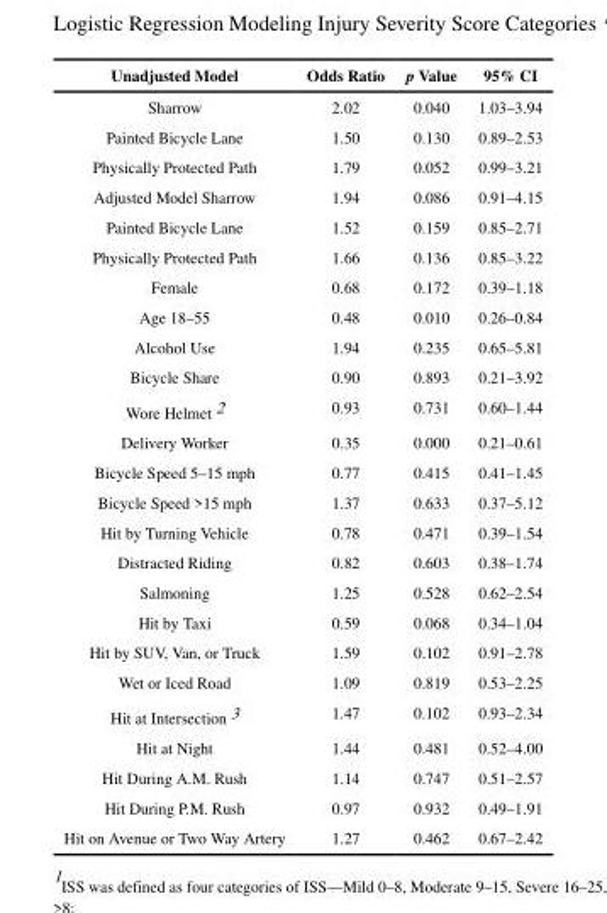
<table><thead><tr><td>Unadjusted Model</td><td>Odds Ratio</td><td>p Value</td><td>95% CI</td></tr></thead><tbody><tr><td>Sharrow</td><td>2.02</td><td>0.040</td><td>1.03–3.94</td></tr><tr><td>Painted Bicycle Lane</td><td>1.50</td><td>0.130</td><td>0.89–2.53</td></tr><tr><td>Physically Protected Path</td><td>1.79</td><td>0.052</td><td>0.99–3.21</td></tr><tr><td>Adjusted Model Sharrow</td><td>1.94</td><td>0.086</td><td>0.91–4.15</td></tr><tr><td>Painted Bicycle Lane</td><td>1.52</td><td>0.159</td><td>0.85–2.71</td></tr><tr><td>Physically Protected Path</td><td>1.66</td><td>0.136</td><td>0.85–3.22</td></tr><tr><td>Female</td><td>0.68</td><td>0.172</td><td>0.39–1.18</td></tr><tr><td>Age 18–55</td><td>0.48</td><td>0.010</td><td>0.26–0.84</td></tr><tr><td>Alcohol Use</td><td>1.94</td><td>0.235</td><td>0.65–5.81</td></tr><tr><td>Bicycle Share</td><td>0.90</td><td>0.893</td><td>0.21–3.92</td></tr><tr><td>Wore Helmet 2</td><td>0.93</td><td>0.731</td><td>0.60–1.44</td></tr><tr><td>Delivery Worker</td><td>0.35</td><td>0.000</td><td>0.21–0.61</td></tr><tr><td>Bicycle Speed 5–15 mph</td><td>0.77</td><td>0.415</td><td>0.41–1.45</td></tr><tr><td>Bicycle Speed &gt;15 mph</td><td>1.37</td><td>0.633</td><td>0.37–5.12</td></tr><tr><td>Hit by Turning Vehicle</td><td>0.78</td><td>0.471</td><td>0.39–1.54</td></tr><tr><td>Distracted Riding</td><td>0.82</td><td>0.603</td><td>0.38–1.74</td></tr><tr><td>Salmoning</td><td>1.25</td><td>0.528</td><td>0.62–2.54</td></tr><tr><td>Hit by Taxi</td><td>0.59</td><td>0.068</td><td>0.34–1.04</td></tr><tr><td>Hit by SUV, Van, or Truck</td><td>1.59</td><td>0.102</td><td>0.91–2.78</td></tr><tr><td>Wet or Iced Road</td><td>1.09</td><td>0.819</td><td>0.53–2.25</td></tr><tr><td>Hit at Intersection 3</td><td>1.47</td><td>0.102</td><td>0.93–2.34</td></tr><tr><td>Hit at Night</td><td>1.44</td><td>0.481</td><td>0.52–4.00</td></tr><tr><td>Hit During A.M. Rush</td><td>1.14</td><td>0.747</td><td>0.51–2.57</td></tr><tr><td>Hit During P.M. Rush</td><td>0.97</td><td>0.932</td><td>0.49–1.91</td></tr><tr><td>Hit on Avenue or Two Way Artery</td><td>1.27</td><td>0.462</td><td>0.67–2.42</td></tr></tbody></table>